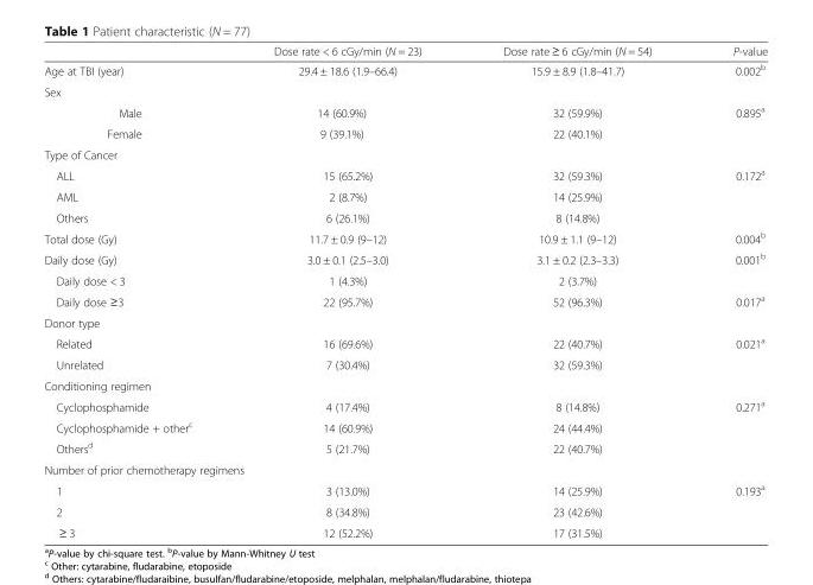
<table><thead><tr><td></td><td>Dose rate &lt; 6 cGy/min (N = 23)</td><td>Dose rate ≥ 6 cGy/min (N = 54)</td><td>P-value</td></tr></thead><tbody><tr><td>Age at TBI (year)</td><td>29.4 ± 18.6 (1.9–66.4)</td><td>15.9 ± 8.9 (1.8–41.7)</td><td>0.002<sup>b</sup></td></tr><tr><td colspan="4">Sex</td></tr><tr><td>Male</td><td>14 (60.9%)</td><td>32 (59.9%)</td><td>0.895<sup>a</sup></td></tr><tr><td>Female</td><td>9 (39.1%)</td><td>22 (40.1%)</td><td></td></tr><tr><td colspan="4">Type of Cancer</td></tr><tr><td>ALL</td><td>15 (65.2%)</td><td>32 (59.3%)</td><td>0.172<sup>a</sup></td></tr><tr><td>AML</td><td>2 (8.7%)</td><td>14 (25.9%)</td><td></td></tr><tr><td>Others</td><td>6 (26.1%)</td><td>8 (14.8%)</td><td></td></tr><tr><td>Total dose (Gy)</td><td>11.7 ± 0.9 (9–12)</td><td>10.9 ± 1.1 (9–12)</td><td>0.004<sup>b</sup></td></tr><tr><td>Daily dose (Gy)</td><td>3.0 ± 0.1 (2.5–3.0)</td><td>3.1 ± 0.2 (2.3–3.3)</td><td>0.001<sup>b</sup></td></tr><tr><td>Daily dose &lt; 3</td><td>1 (4.3%)</td><td>2 (3.7%)</td><td></td></tr><tr><td>Daily dose ≥3</td><td>22 (95.7%)</td><td>52 (96.3%)</td><td>0.017<sup>a</sup></td></tr><tr><td colspan="4">Donor type</td></tr><tr><td>Related</td><td>16 (69.6%)</td><td>22 (40.7%)</td><td>0.021<sup>a</sup></td></tr><tr><td>Unrelated</td><td>7 (30.4%)</td><td>32 (59.3%)</td><td></td></tr><tr><td colspan="4">Conditioning regimen</td></tr><tr><td>Cyclophosphamide</td><td>4 (17.4%)</td><td>8 (14.8%)</td><td>0.271<sup>a</sup></td></tr><tr><td>Cyclophosphamide + other<sup>c</sup></td><td>14 (60.9%)</td><td>24 (44.4%)</td><td></td></tr><tr><td>Others<sup>d</sup></td><td>5 (21.7%)</td><td>22 (40.7%)</td><td></td></tr><tr><td colspan="4">Number of prior chemotherapy regimens</td></tr><tr><td>1</td><td>3 (13.0%)</td><td>14 (25.9%)</td><td>0.193<sup>a</sup></td></tr><tr><td>2</td><td>8 (34.8%)</td><td>23 (42.6%)</td><td></td></tr><tr><td>≥ 3</td><td>12 (52.2%)</td><td>17 (31.5%)</td><td></td></tr></tbody></table>